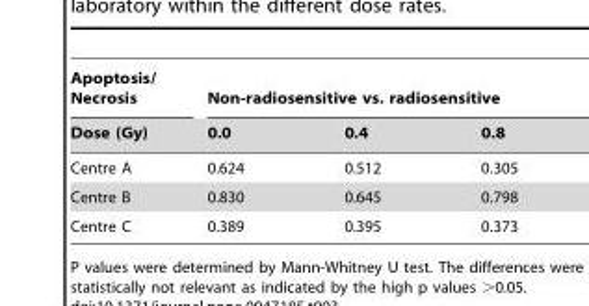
<table><thead><tr><td rowspan="2">Apoptosis/ Necrosis Dose (Gy)</td><td colspan="3">Non-radiosensitive vs. radiosensitive</td></tr><tr><td>0.0</td><td>0.4</td><td>0.8</td></tr></thead><tbody><tr><td>Centre A</td><td>0.624</td><td>0.512</td><td>0.305</td></tr><tr><td>Centre B</td><td>0.830</td><td>0.645</td><td>0.798</td></tr><tr><td>Centre C</td><td>0.389</td><td>0.395</td><td>0.373</td></tr></tbody></table>